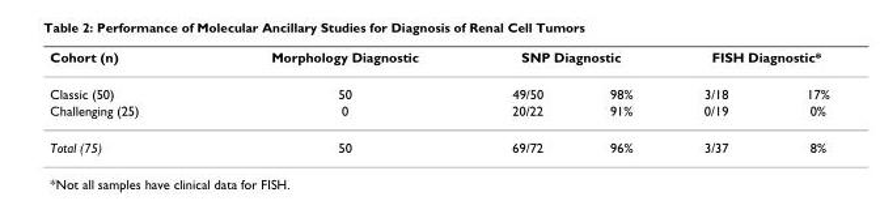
<table><thead><tr><td rowspan="2">Cohort (n) Classic (50)</td><td rowspan="2">Morphology Diagnostic 50</td><td colspan="2">SNP Diagnostic</td><td colspan="2">FISH Diagnostic*</td></tr><tr><td>49/50</td><td>98%</td><td>3/18</td><td>17%</td></tr></thead><tbody><tr><td>Challenging (25)</td><td>0</td><td>20/22</td><td>91%</td><td>0/19</td><td>0%</td></tr><tr><td>Total (75)</td><td>50</td><td>69/72</td><td>96%</td><td>3/37</td><td>8%</td></tr></tbody></table>